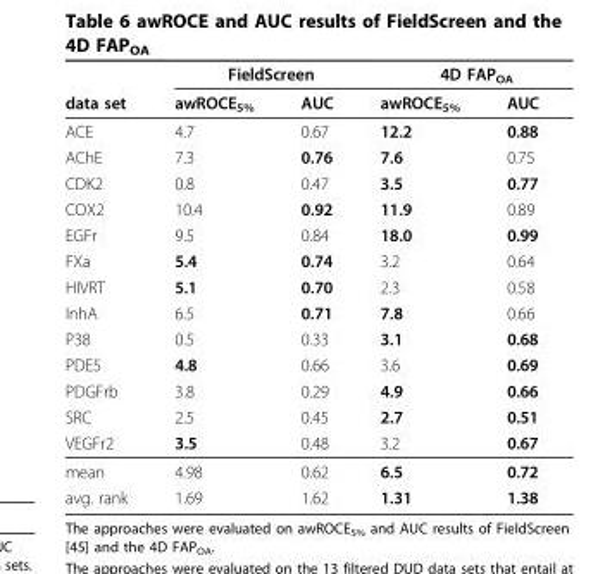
<table><thead><tr><td rowspan="2">data set</td><td colspan="2">FieldScreen</td><td colspan="2">4D FAP<sub>OA</sub></td></tr><tr><td>awROCE<sub>5%</sub></td><td>AUC</td><td>awROCE<sub>5%</sub></td><td>AUC</td></tr></thead><tbody><tr><td>ACE</td><td>4.7</td><td>0.67</td><td>12.2</td><td>0.88</td></tr><tr><td>AChE</td><td>7.3</td><td>0.76</td><td>7.6</td><td>0.75</td></tr><tr><td>CDK2</td><td>0.8</td><td>0.47</td><td>3.5</td><td>0.77</td></tr><tr><td>COX2</td><td>10.4</td><td>0.92</td><td>11.9</td><td>0.89</td></tr><tr><td>EGFr</td><td>9.5</td><td>0.84</td><td>18.0</td><td>0.99</td></tr><tr><td>FXa</td><td>5.4</td><td>0.74</td><td>3.2</td><td>0.64</td></tr><tr><td>HIVRT</td><td>5.1</td><td>0.70</td><td>2.3</td><td>0.58</td></tr><tr><td>InhA</td><td>6.5</td><td>0.71</td><td>7.8</td><td>0.66</td></tr><tr><td>P38</td><td>0.5</td><td>0.33</td><td>3.1</td><td>0.68</td></tr><tr><td>PDE5</td><td>4.8</td><td>0.66</td><td>3.6</td><td>0.69</td></tr><tr><td>PDGFrb</td><td>3.8</td><td>0.29</td><td>4.9</td><td>0.66</td></tr><tr><td>SRC</td><td>2.5</td><td>0.45</td><td>2.7</td><td>0.51</td></tr><tr><td>VEGFr2</td><td>3.5</td><td>0.48</td><td>3.2</td><td>0.67</td></tr><tr><td>mean</td><td>4.98</td><td>0.62</td><td>6.5</td><td>0.72</td></tr><tr><td>avg. rank</td><td>1.69</td><td>1.62</td><td>1.31</td><td>1.38</td></tr></tbody></table>